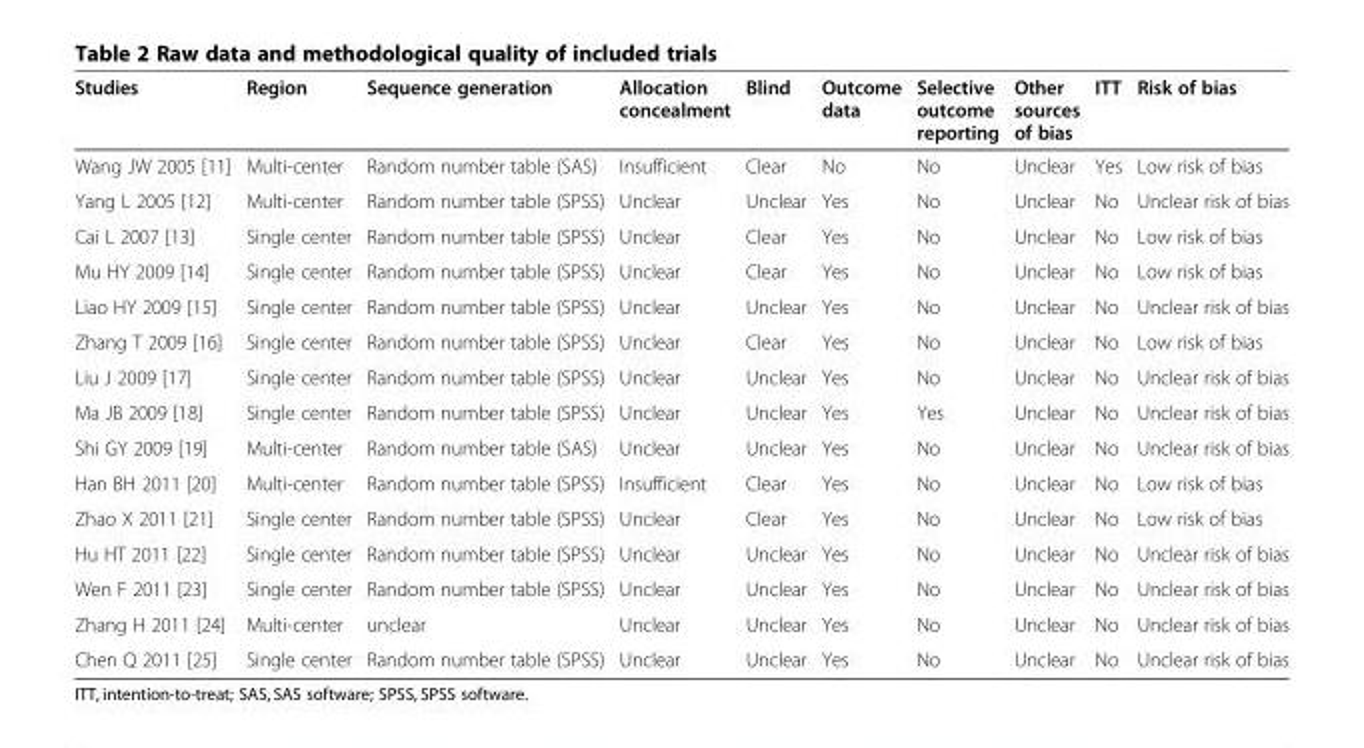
<table><thead><tr><td>Studies</td><td>Region</td><td>Sequence generation</td><td>Allocation concealment</td><td>Blind</td><td>Outcome data</td><td>Selective outcome reporting</td><td>Other sources of bias</td><td>ITT</td><td>Risk of bias</td></tr></thead><tbody><tr><td>Wang JW 2005 [11]</td><td>Multi-center</td><td>Random number table (SAS)</td><td>Insufficient</td><td>Clear</td><td>No</td><td>No</td><td>Unclear</td><td>Yes</td><td>Low risk of bias</td></tr><tr><td>Yang L 2005 [12]</td><td>Multi-center</td><td>Random number table (SPSS)</td><td>Unclear</td><td>Unclear</td><td>Yes</td><td>No</td><td>Unclear</td><td>No</td><td>Unclear risk of bias</td></tr><tr><td>Cai L 2007 [13]</td><td>Single center</td><td>Random number table (SPSS)</td><td>Unclear</td><td>Clear</td><td>Yes</td><td>No</td><td>Unclear</td><td>No</td><td>Low risk of bias</td></tr><tr><td>Mu HY 2009 [14]</td><td>Single center</td><td>Random number table (SPSS)</td><td>Unclear</td><td>Clear</td><td>Yes</td><td>No</td><td>Unclear</td><td>No</td><td>Low risk of bias</td></tr><tr><td>Liao HY 2009 [15]</td><td>Single center</td><td>Random number table (SPSS)</td><td>Unclear</td><td>Unclear</td><td>Yes</td><td>No</td><td>Unclear</td><td>No</td><td>Unclear risk of bias</td></tr><tr><td>Zhang T 2009 [16]</td><td>Single center</td><td>Random number table (SPSS)</td><td>Unclear</td><td>Clear</td><td>Yes</td><td>No</td><td>Unclear</td><td>No</td><td>Low risk of bias</td></tr><tr><td>Liu J 2009 [17]</td><td>Single center</td><td>Random number table (SPSS)</td><td>Unclear</td><td>Unclear</td><td>Yes</td><td>No</td><td>Unclear</td><td>No</td><td>Unclear risk of bias</td></tr><tr><td>Ma JB 2009 [18]</td><td>Single center</td><td>Random number table (SPSS)</td><td>Unclear</td><td>Unclear</td><td>Yes</td><td>Yes</td><td>Unclear</td><td>No</td><td>Unclear risk of bias</td></tr><tr><td>Shi GY 2009 [19]</td><td>Multi-center</td><td>Random number table (SAS)</td><td>Unclear</td><td>Unclear</td><td>Yes</td><td>No</td><td>Unclear</td><td>No</td><td>Unclear risk of bias</td></tr><tr><td>Han BH 2011 [20]</td><td>Multi-center</td><td>Random number table (SPSS)</td><td>Insufficient</td><td>Clear</td><td>Yes</td><td>No</td><td>Unclear</td><td>No</td><td>Low risk of bias</td></tr><tr><td>Zhao X 2011 [21]</td><td>Single center</td><td>Random number table (SPSS)</td><td>Unclear</td><td>Clear</td><td>Yes</td><td>No</td><td>Unclear</td><td>No</td><td>Low risk of bias</td></tr><tr><td>Hu HT 2011 [22]</td><td>Single center</td><td>Random number table (SPSS)</td><td>Unclear</td><td>Unclear</td><td>Yes</td><td>No</td><td>Unclear</td><td>No</td><td>Unclear risk of bias</td></tr><tr><td>Wen F 2011 [23]</td><td>Single center</td><td>Random number table (SPSS)</td><td>Unclear</td><td>Unclear</td><td>Yes</td><td>No</td><td>Unclear</td><td>No</td><td>Unclear risk of bias</td></tr><tr><td>Zhang H 2011 [24]</td><td>Multi-center</td><td>unclear</td><td>Unclear</td><td>Unclear</td><td>Yes</td><td>No</td><td>Unclear</td><td>No</td><td>Unclear risk of bias</td></tr><tr><td>Chen Q 2011 [25]</td><td>Single center</td><td>Random number table (SPSS)</td><td>Unclear</td><td>Unclear</td><td>Yes</td><td>No</td><td>Unclear</td><td>No</td><td>Unclear risk of bias</td></tr></tbody></table>